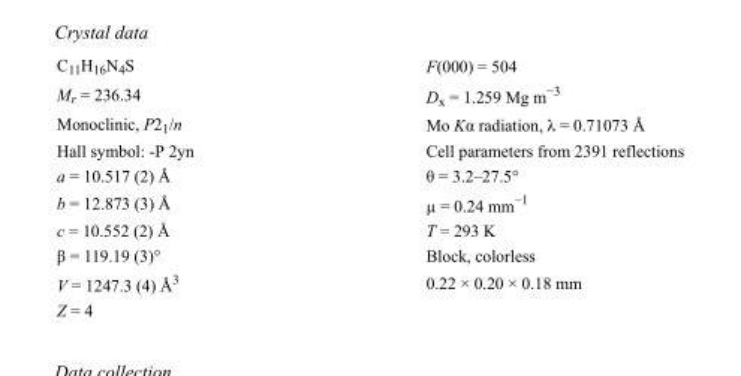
<table><tbody><tr><td>C<sub>11</sub>H<sub>16</sub>N<sub>4</sub>S</td><td>F(000) = 504</td></tr><tr><td>M<sub>r</sub> = 236.34</td><td>D<sub>x</sub> = 1.259 Mg m<sup>−3</sup></td></tr><tr><td>Monoclinic, P2<sub>1</sub>/n</td><td>Mo Kα radiation, λ = 0.71073 Å</td></tr><tr><td>Hall symbol: -P 2yn</td><td>Cell parameters from 2391 reflections</td></tr><tr><td>a = 10.517 (2) Å</td><td>θ = 3.2–27.5°</td></tr><tr><td>b = 12.873 (3) Å</td><td>µ = 0.24 mm<sup>−1</sup></td></tr><tr><td>c = 10.552 (2) Å</td><td>T = 293 K</td></tr><tr><td>β = 119.19 (3)°</td><td>Block, colorless</td></tr><tr><td>V = 1247.3 (4) Å<sup>3</sup></td><td>0.22 × 0.20 × 0.18 mm</td></tr><tr><td>Z = 4</td><td></td></tr></tbody></table>